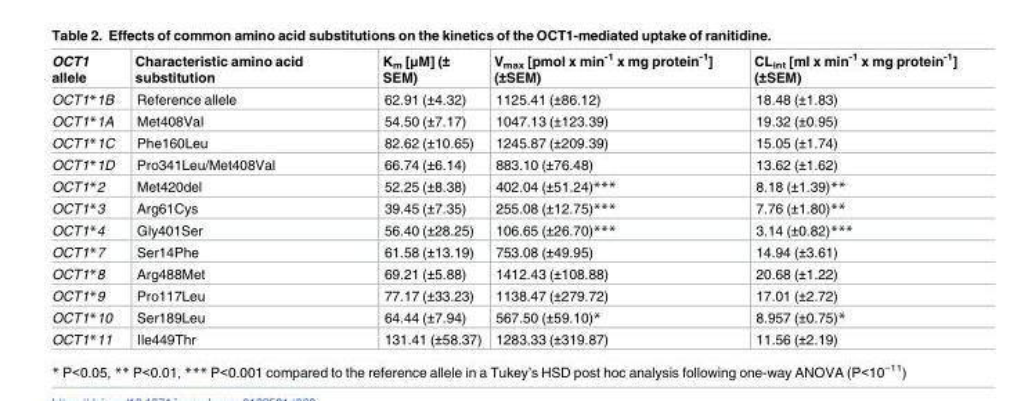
<table><thead><tr><td>OCT1 allele</td><td>Characteristic amino acid substitution</td><td>K<sub>m</sub> [μM] (± SEM)</td><td>V<sub>max</sub> [pmol x min<sup>-1</sup> x mg protein<sup>-1</sup>] (±SEM)</td><td>CL<sub>int</sub> [ml x min<sup>-1</sup> x mg protein<sup>-1</sup>] (±SEM)</td></tr></thead><tbody><tr><td>OCT1*1B</td><td>Reference allele</td><td>62.91 (±4.32)</td><td>1125.41 (±86.12)</td><td>18.48 (±1.83)</td></tr><tr><td>OCT1*1A</td><td>Met408Val</td><td>54.50 (±7.17)</td><td>1047.13 (±123.39)</td><td>19.32 (±0.95)</td></tr><tr><td>OCT1*1C</td><td>Phe160Leu</td><td>82.62 (±10.65)</td><td>1245.87 (±209.39)</td><td>15.05 (±1.74)</td></tr><tr><td>OCT1*1D</td><td>Pro341Leu/Met408Val</td><td>66.74 (±6.14)</td><td>883.10 (±76.48)</td><td>13.62 (±1.62)</td></tr><tr><td>OCT1*2</td><td>Met420del</td><td>52.25 (±8.38)</td><td>402.04 (±51.24)***</td><td>8.18 (±1.39)**</td></tr><tr><td>OCT1*3</td><td>Arg61Cys</td><td>39.45 (±7.35)</td><td>255.08 (±12.75)***</td><td>7.76 (±1.80)**</td></tr><tr><td>OCT1*4</td><td>Gly401Ser</td><td>56.40 (±28.25)</td><td>106.65 (±26.70)***</td><td>3.14 (±0.82)***</td></tr><tr><td>OCT1*7</td><td>Ser14Phe</td><td>61.58 (±13.19)</td><td>753.08 (±49.95)</td><td>14.94 (±3.61)</td></tr><tr><td>OCT1*8</td><td>Arg488Met</td><td>69.21 (±5.88)</td><td>1412.43 (±108.88)</td><td>20.68 (±1.22)</td></tr><tr><td>OCT1*9</td><td>Pro117Leu</td><td>77.17 (±33.23)</td><td>1138.47 (±279.72)</td><td>17.01 (±2.72)</td></tr><tr><td>OCT1*10</td><td>Ser189Leu</td><td>64.44 (±7.94)</td><td>567.50 (±59.10)*</td><td>8.957 (±0.75)*</td></tr><tr><td>OCT1*11</td><td>Ile449Thr</td><td>131.41 (±58.37)</td><td>1283.33 (±319.87)</td><td>11.56 (±2.19)</td></tr></tbody></table>